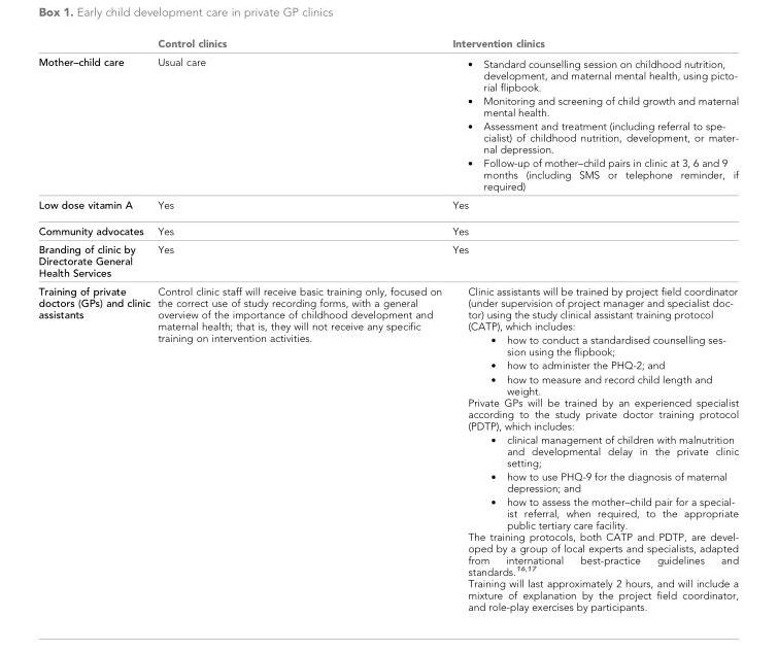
<table><thead><tr><td></td><td>Control clinics</td><td>Intervention clinics</td></tr></thead><tbody><tr><td>Mother–child care</td><td>Usual care</td><td>. Standard counselling session on childhood nutrition, development, and maternal mental health, using picto- rial flipbook. . Monitoring and screening of child growth and maternal mental health. . Assessment and treatment (including referral to spe- cialist) of childhood nutrition, development, or mater- nal depression. . Follow-up of mother–child pairs in clinic at 3, 6 and 9 months (including SMS or telephone reminder, if required)</td></tr><tr><td>Low dose vitamin A</td><td>Yes</td><td>Yes</td></tr><tr><td>Community advocates</td><td>Yes</td><td>Yes</td></tr><tr><td>Branding of clinic by Directorate General Health Services</td><td>Yes</td><td>Yes</td></tr><tr><td>Training of private doctors (GPs) and clinic assistants</td><td>Control clinic staff will receive basic training only, focused on the correct use of study recording forms, with a general overview of the importance of childhood development and maternal health; that is, they will not receive any specific training on intervention activities.</td><td>Clinic assistants will be trained by project field coordinator (under supervision of project manager and specialist doc- tor) using the study clinical assistant training protocol (CATP), which includes: . how to conduct a standardised counselling ses- sion using the flipbook; . how to administer the PHQ-2; and . how to measure and record child length and weight. Private GPs will be trained by an experienced specialist according to the study private doctor training protocol (PDTP), which includes: . clinical management of children with malnutrition and developmental delay in the private clinic setting; . how to use PHQ-9 for the diagnosis of maternal depression; and . how to assess the mother–child pair for a special- ist referral, when required, to the appropriate public tertiary care facility. The training protocols, both CATP and PDTP, are devel- oped by a group of local experts and specialists, adapted from international best-practice guidelines and standards.16,17 Training will last approximately 2 hours, and will include a mixture of explanation by the project field coordinator, and role-play exercises by participants.</td></tr></tbody></table>